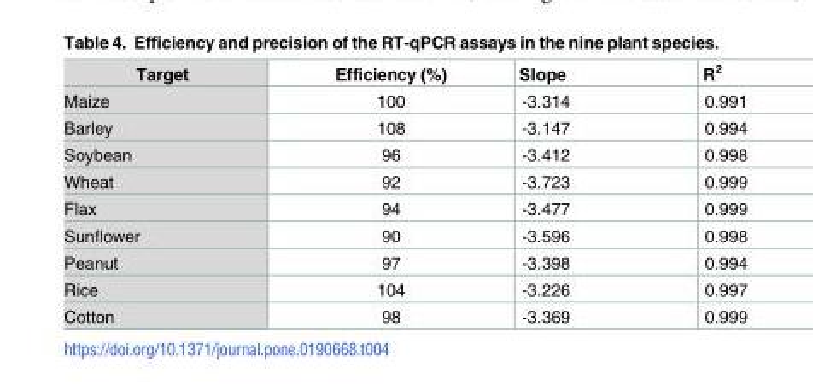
<table><thead><tr><td>Target</td><td>Efficiency (%)</td><td>Slope</td><td>R<sup>2</sup></td></tr></thead><tbody><tr><td>Maize</td><td>100</td><td>-3.314</td><td>0.991</td></tr><tr><td>Barley</td><td>108</td><td>-3.147</td><td>0.994</td></tr><tr><td>Soybean</td><td>96</td><td>-3.412</td><td>0.998</td></tr><tr><td>Wheat</td><td>92</td><td>-3.723</td><td>0.999</td></tr><tr><td>Flax</td><td>94</td><td>-3.477</td><td>0.999</td></tr><tr><td>Sunflower</td><td>90</td><td>-3.596</td><td>0.998</td></tr><tr><td>Peanut</td><td>97</td><td>-3.398</td><td>0.994</td></tr><tr><td>Rice</td><td>104</td><td>-3.226</td><td>0.997</td></tr><tr><td>Cotton</td><td>98</td><td>-3.369</td><td>0.999</td></tr></tbody></table>